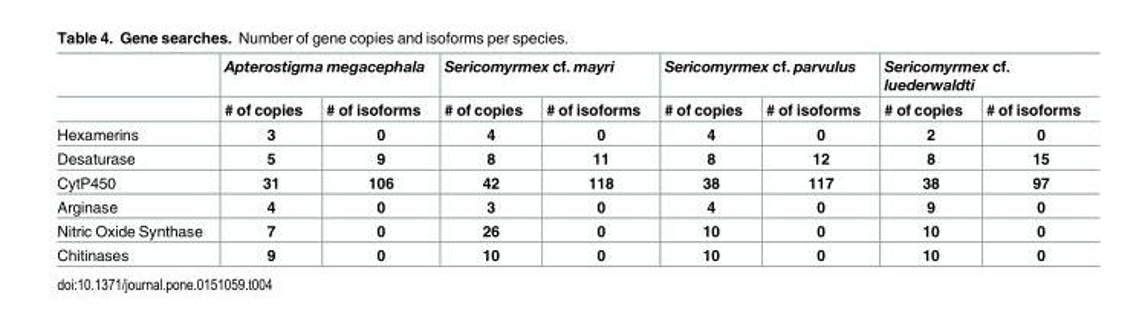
<table><thead><tr><td rowspan="2"></td><td colspan="2">Apterostigma megacephala</td><td colspan="2">Sericomyrmex cf. mayri</td><td colspan="2">Sericomyrmex cf. parvulus</td><td colspan="2">Sericomyrmex cf. luederwaldti</td></tr><tr><td># of copies</td><td># of isoforms</td><td># of copies</td><td># of isoforms</td><td># of copies</td><td># of isoforms</td><td># of copies</td><td># of isoforms</td></tr></thead><tbody><tr><td>Hexamerins</td><td>3</td><td>0</td><td>4</td><td>0</td><td>4</td><td>0</td><td>2</td><td>0</td></tr><tr><td>Desaturase</td><td>5</td><td>9</td><td>8</td><td>11</td><td>8</td><td>12</td><td>8</td><td>15</td></tr><tr><td>CytP450</td><td>31</td><td>106</td><td>42</td><td>118</td><td>38</td><td>117</td><td>38</td><td>97</td></tr><tr><td>Arginase</td><td>4</td><td>0</td><td>3</td><td>0</td><td>4</td><td>0</td><td>9</td><td>0</td></tr><tr><td>Nitric Oxide Synthase</td><td>7</td><td>0</td><td>26</td><td>0</td><td>10</td><td>0</td><td>10</td><td>0</td></tr><tr><td>Chitinases</td><td>9</td><td>0</td><td>10</td><td>0</td><td>10</td><td>0</td><td>10</td><td>0</td></tr></tbody></table>